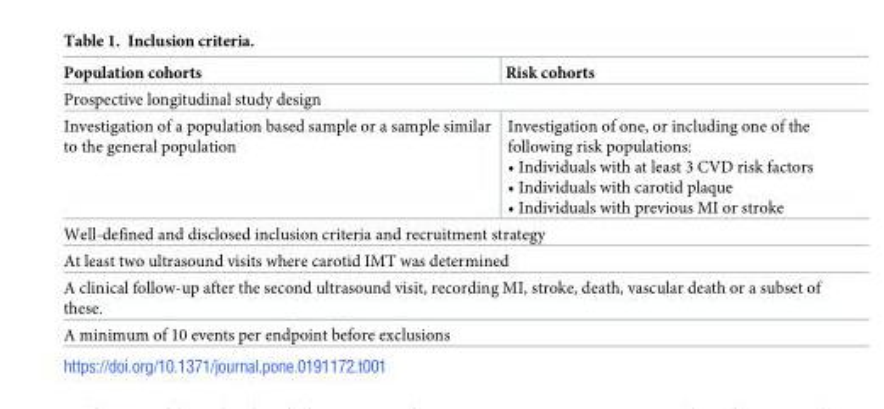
<table><thead><tr><td>Population cohorts</td><td>Risk cohorts</td></tr></thead><tbody><tr><td colspan="2">Prospective longitudinal study design</td></tr><tr><td>Investigation of a population based sample or a sample similar to the general population</td><td>Investigation of one, or including one of the following risk populations: • Individuals with at least 3 CVD risk factors • Individuals with carotid plaque • Individuals with previous MI or stroke</td></tr><tr><td colspan="2">Well-defined and disclosed inclusion criteria and recruitment strategy</td></tr><tr><td colspan="2">At least two ultrasound visits where carotid IMT was determined</td></tr><tr><td colspan="2">A clinical follow-up after the second ultrasound visit, recording MI, stroke, death, vascular death or a subset of these.</td></tr><tr><td colspan="2">A minimum of 10 events per endpoint before exclusions</td></tr></tbody></table>